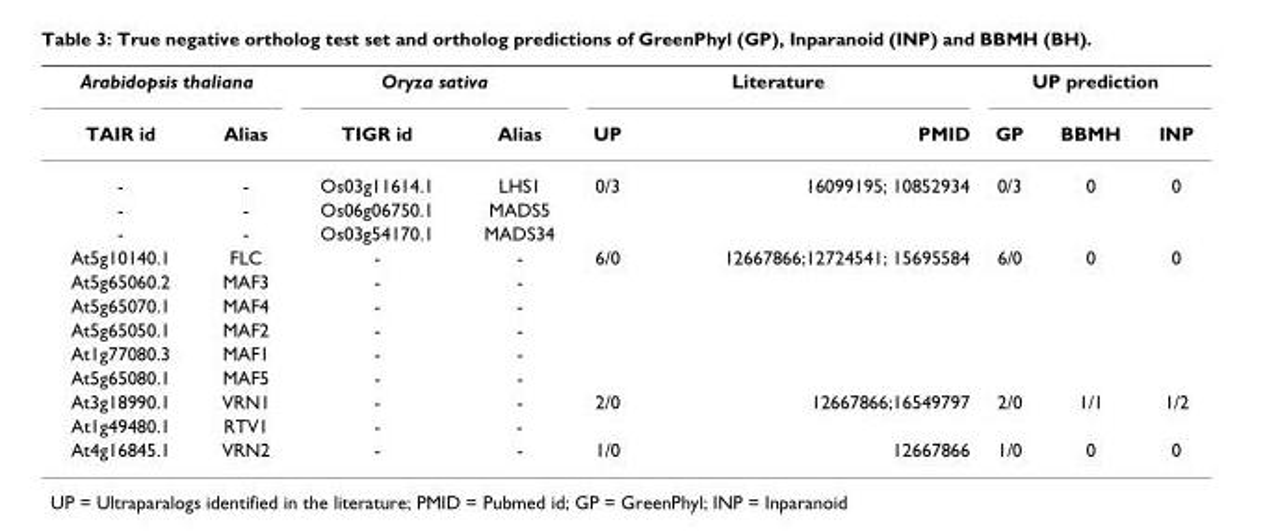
<table><thead><tr><td colspan="2">Arabidopsis thaliana</td><td colspan="2">Oryza sativa</td><td colspan="2">Literature</td><td colspan="3">UP prediction</td></tr><tr><td>TAIR id</td><td>Alias</td><td>TIGR id</td><td>Alias</td><td>UP</td><td>PMID</td><td>GP</td><td>BBMH</td><td>INP</td></tr></thead><tbody><tr><td>-</td><td>-</td><td>Os03g11614.1</td><td>LHS1</td><td>0/3</td><td>16099195; 10852934</td><td>0/3</td><td>0</td><td>0</td></tr><tr><td>-</td><td>-</td><td>Os06g06750.1</td><td>MADS5</td><td></td><td></td><td></td><td></td><td></td></tr><tr><td>-</td><td>-</td><td>Os03g54170.1</td><td>MADS34</td><td></td><td></td><td></td><td></td><td></td></tr><tr><td>At5g10140.1</td><td>FLC</td><td>-</td><td>-</td><td>6/0</td><td>12667866;12724541; 15695584</td><td>6/0</td><td>0</td><td>0</td></tr><tr><td>At5g65060.2</td><td>MAF3</td><td>-</td><td>-</td><td></td><td></td><td></td><td></td><td></td></tr><tr><td>At5g65070.1</td><td>MAF4</td><td>-</td><td>-</td><td></td><td></td><td></td><td></td><td></td></tr><tr><td>At5g65050.1</td><td>MAF2</td><td>-</td><td>-</td><td></td><td></td><td></td><td></td><td></td></tr><tr><td>At1g77080.3</td><td>MAF1</td><td>-</td><td>-</td><td></td><td></td><td></td><td></td><td></td></tr><tr><td>At5g65080.1</td><td>MAF5</td><td>-</td><td>-</td><td></td><td></td><td></td><td></td><td></td></tr><tr><td>At3g18990.1</td><td>VRN1</td><td>-</td><td>-</td><td>2/0</td><td>12667866;16549797</td><td>2/0</td><td>1/1</td><td>1/2</td></tr><tr><td>At1g49480.1</td><td>RTV1</td><td>-</td><td>-</td><td></td><td></td><td></td><td></td><td></td></tr><tr><td>At4g16845.1</td><td>VRN2</td><td>-</td><td>-</td><td>1/0</td><td>12667866</td><td>1/0</td><td>0</td><td>0</td></tr></tbody></table>